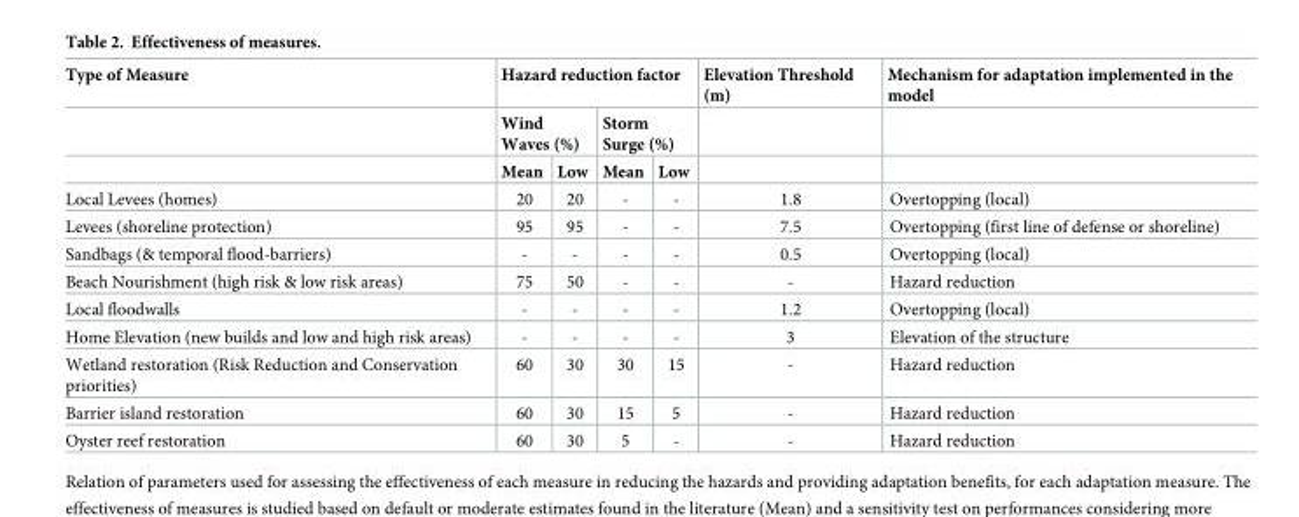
<table><thead><tr><td rowspan="3">Type of Measure</td><td colspan="4">Hazard reduction factor</td><td rowspan="3">Elevation Threshold (m)</td><td rowspan="3">Mechanism for adaptation implemented in the model</td></tr><tr><td colspan="2">Wind Waves (%)</td><td colspan="2">Storm Surge (%)</td></tr><tr><td>Mean</td><td>Low</td><td>Mean</td><td>Low</td></tr></thead><tbody><tr><td>Local Levees (homes)</td><td>20</td><td>20</td><td>-</td><td>-</td><td>1.8</td><td>Overtopping (local)</td></tr><tr><td>Levees (shoreline protection)</td><td>95</td><td>95</td><td>-</td><td>-</td><td>7.5</td><td>Overtopping (first line of defense or shoreline)</td></tr><tr><td>Sandbags (&amp; temporal flood-barriers)</td><td>-</td><td>-</td><td>-</td><td>-</td><td>0.5</td><td>Overtopping (local)</td></tr><tr><td>Beach Nourishment (high risk &amp; low risk areas)</td><td>75</td><td>50</td><td>-</td><td>-</td><td>-</td><td>Hazard reduction</td></tr><tr><td>Local floodwalls</td><td>-</td><td>-</td><td>-</td><td>-</td><td>1.2</td><td>Overtopping (local)</td></tr><tr><td>Home Elevation (new builds and low and high risk areas)</td><td>-</td><td>-</td><td>-</td><td>-</td><td>3</td><td>Elevation of the structure</td></tr><tr><td>Wetland restoration (Risk Reduction and Conservation priorities)</td><td>60</td><td>30</td><td>30</td><td>15</td><td>-</td><td>Hazard reduction</td></tr><tr><td>Barrier island restoration</td><td>60</td><td>30</td><td>15</td><td>5</td><td>-</td><td>Hazard reduction</td></tr><tr><td>Oyster reef restoration</td><td>60</td><td>30</td><td>5</td><td>-</td><td>-</td><td>Hazard reduction</td></tr></tbody></table>